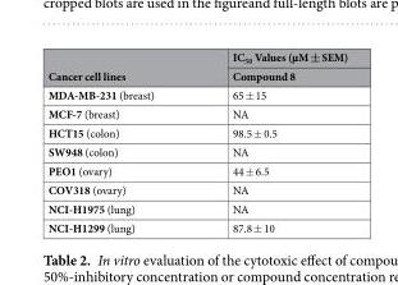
<table><thead><tr><td rowspan="2">Cancer cell lines</td><td rowspan="2">IC<sub>50</sub> Values (µM ± SEM) Compound 8</td></tr><tr></tr></thead><tbody><tr><td>MDA-MB-231 (breast)</td><td>65 ± 15</td></tr><tr><td>MCF-7 (breast)</td><td>NA</td></tr><tr><td>HCT15 (colon)</td><td>98.5 ± 0.5</td></tr><tr><td>SW948 (colon)</td><td>NA</td></tr><tr><td>PEO1 (ovary)</td><td>44 ± 6.5</td></tr><tr><td>COV318 (ovary)</td><td>NA</td></tr><tr><td>NCI-H1975 (lung)</td><td>NA</td></tr><tr><td>NCI-H1299 (lung)</td><td>87.8 ± 10</td></tr></tbody></table>